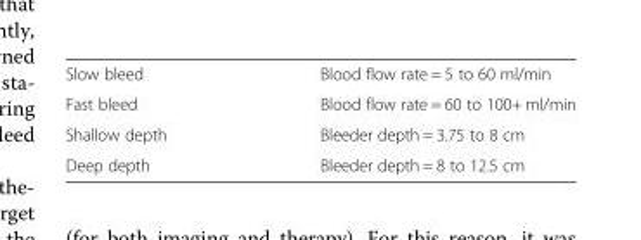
<table><tbody><tr><td>Slow bleed</td><td>Blood flow rate = 5 to 60 ml/min</td></tr><tr><td>Fast bleed</td><td>Blood flow rate = 60 to 100+ ml/min</td></tr><tr><td>Shallow depth</td><td>Bleeder depth = 3.75 to 8 cm</td></tr><tr><td>Deep depth</td><td>Bleeder depth = 8 to 12.5 cm</td></tr></tbody></table>